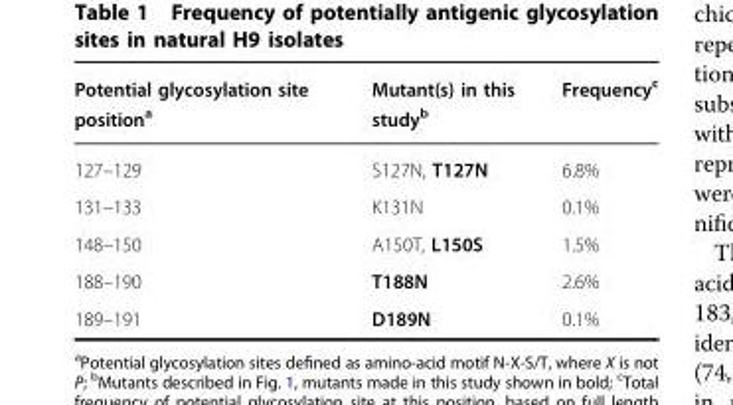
<table><thead><tr><td>Potential glycosylation site position<sup>a</sup></td><td>Mutant(s) in this study<sup>b</sup></td><td>Frequency<sup>c</sup></td></tr></thead><tbody><tr><td>127–129</td><td>S127N, T127N</td><td>6.8%</td></tr><tr><td>131–133</td><td>K131N</td><td>0.1%</td></tr><tr><td>148–150</td><td>A150T, L150S</td><td>1.5%</td></tr><tr><td>188–190</td><td>T188N</td><td>2.6%</td></tr><tr><td>189–191</td><td>D189N</td><td>0.1%</td></tr></tbody></table>